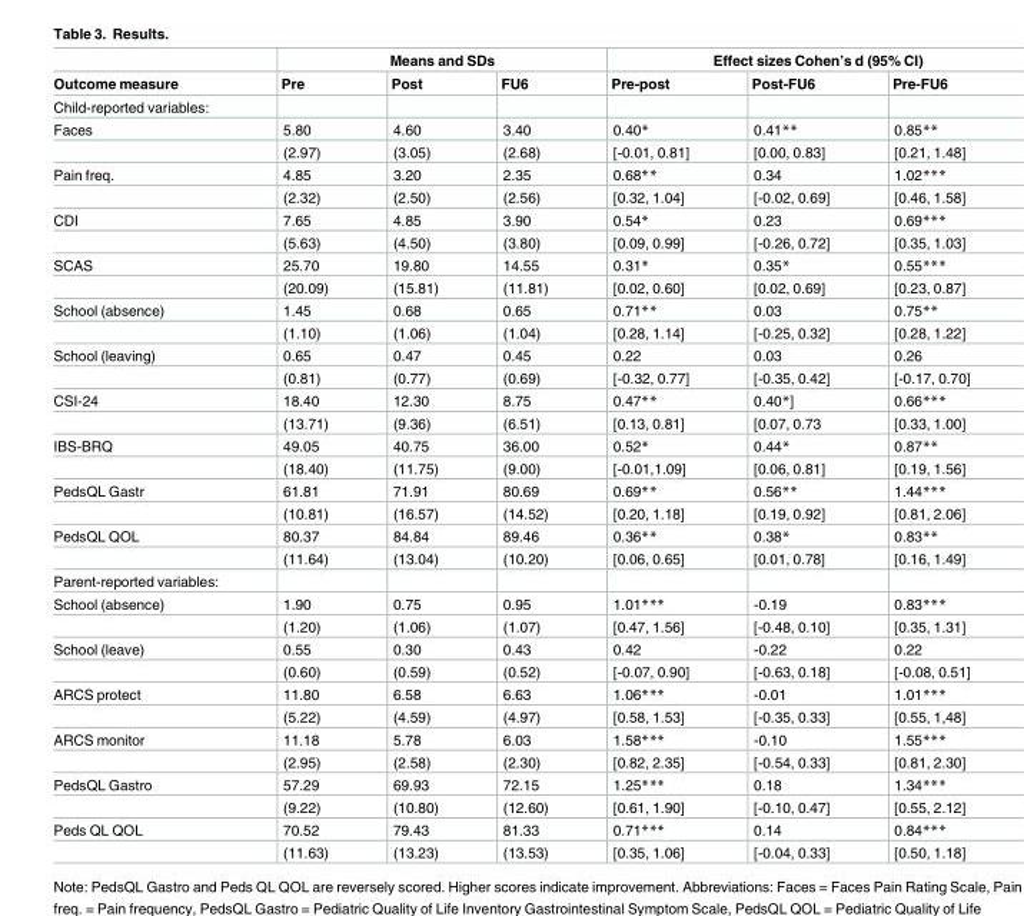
<table><thead><tr><td rowspan="2">Outcome measure</td><td colspan="3">Means and SDs</td><td colspan="3">Effect sizes Cohen’s d (95% CI)</td></tr><tr><td>Pre</td><td>Post</td><td>FU6</td><td>Pre-post</td><td>Post-FU6</td><td>Pre-FU6</td></tr></thead><tbody><tr><td colspan="7">Child-reported variables:</td></tr><tr><td rowspan="2">Faces</td><td>5.80</td><td>4.60</td><td>3.40</td><td>0.40*</td><td>0.41**</td><td>0.85**</td></tr><tr><td>(2.97)</td><td>(3.05)</td><td>(2.68)</td><td>[-0.01, 0.81]</td><td>[0.00, 0.83]</td><td>[0.21, 1.48]</td></tr><tr><td rowspan="2">Pain freq.</td><td>4.85</td><td>3.20</td><td>2.35</td><td>0.68**</td><td>0.34</td><td>1.02***</td></tr><tr><td>(2.32)</td><td>(2.50)</td><td>(2.56)</td><td>[0.32, 1.04]</td><td>[-0.02, 0.69]</td><td>[0.46, 1.58]</td></tr><tr><td rowspan="2">CDI</td><td>7.65</td><td>4.85</td><td>3.90</td><td>0.54*</td><td>0.23</td><td>0.69***</td></tr><tr><td>(5.63)</td><td>(4.50)</td><td>(3.80)</td><td>[0.09, 0.99]</td><td>[-0.26, 0.72]</td><td>[0.35, 1.03]</td></tr><tr><td rowspan="2">SCAS</td><td>25.70</td><td>19.80</td><td>14.55</td><td>0.31*</td><td>0.35*</td><td>0.55***</td></tr><tr><td>(20.09)</td><td>(15.81)</td><td>(11.81)</td><td>[0.02, 0.60]</td><td>[0.02, 0.69]</td><td>[0.23, 0.87]</td></tr><tr><td rowspan="2">School (absence)</td><td>1.45</td><td>0.68</td><td>0.65</td><td>0.71**</td><td>0.03</td><td>0.75**</td></tr><tr><td>(1.10)</td><td>(1.06)</td><td>(1.04)</td><td>[0.28, 1.14]</td><td>[-0.25, 0.32]</td><td>[0.28, 1.22]</td></tr><tr><td rowspan="2">School (leaving)</td><td>0.65</td><td>0.47</td><td>0.45</td><td>0.22</td><td>0.03</td><td>0.26</td></tr><tr><td>(0.81)</td><td>(0.77)</td><td>(0.69)</td><td>[-0.32, 0.77]</td><td>[-0.35, 0.42]</td><td>[-0.17, 0.70]</td></tr><tr><td rowspan="2">CSI-24</td><td>18.40</td><td>12.30</td><td>8.75</td><td>0.47**</td><td>0.40*]</td><td>0.66***</td></tr><tr><td>(13.71)</td><td>(9.36)</td><td>(6.51)</td><td>[0.13, 0.81]</td><td>[0.07, 0.73</td><td>[0.33, 1.00]</td></tr><tr><td rowspan="2">IBS-BRQ</td><td>49.05</td><td>40.75</td><td>36.00</td><td>0.52*</td><td>0.44*</td><td>0.87**</td></tr><tr><td>(18.40)</td><td>(11.75)</td><td>(9.00)</td><td>[-0.01,1.09]</td><td>[0.06, 0.81]</td><td>[0.19, 1.56]</td></tr><tr><td rowspan="2">PedsQL Gastr</td><td>61.81</td><td>71.91</td><td>80.69</td><td>0.69**</td><td>0.56**</td><td>1.44***</td></tr><tr><td>(10.81)</td><td>(16.57)</td><td>(14.52)</td><td>[0.20, 1.18]</td><td>[0.19, 0.92]</td><td>[0.81, 2.06]</td></tr><tr><td rowspan="2">PedsQL QOL</td><td>80.37</td><td>84.84</td><td>89.46</td><td>0.36**</td><td>0.38*</td><td>0.83**</td></tr><tr><td>(11.64)</td><td>(13.04)</td><td>(10.20)</td><td>[0.06, 0.65]</td><td>[0.01, 0.78]</td><td>[0.16, 1.49]</td></tr><tr><td colspan="7">Parent-reported variables:</td></tr><tr><td rowspan="2">School (absence)</td><td>1.90</td><td>0.75</td><td>0.95</td><td>1.01***</td><td>-0.19</td><td>0.83***</td></tr><tr><td>(1.20)</td><td>(1.06)</td><td>(1.07)</td><td>[0.47, 1.56]</td><td>[-0.48, 0.10]</td><td>[0.35, 1.31]</td></tr><tr><td rowspan="2">School (leave)</td><td>0.55</td><td>0.30</td><td>0.43</td><td>0.42</td><td>-0.22</td><td>0.22</td></tr><tr><td>(0.60)</td><td>(0.59)</td><td>(0.52)</td><td>[-0.07, 0.90]</td><td>[-0.63, 0.18]</td><td>[-0.08, 0.51]</td></tr><tr><td rowspan="2">ARCS protect</td><td>11.80</td><td>6.58</td><td>6.63</td><td>1.06***</td><td>-0.01</td><td>1.01***</td></tr><tr><td>(5.22)</td><td>(4.59)</td><td>(4.97)</td><td>[0.58, 1.53]</td><td>[-0.35, 0.33]</td><td>[0.55, 1,48]</td></tr><tr><td rowspan="2">ARCS monitor</td><td>11.18</td><td>5.78</td><td>6.03</td><td>1.58***</td><td>-0.10</td><td>1.55***</td></tr><tr><td>(2.95)</td><td>(2.58)</td><td>(2.30)</td><td>[0.82, 2.35]</td><td>[-0.54, 0.33]</td><td>[0.81, 2.30]</td></tr><tr><td rowspan="2">PedsQL Gastro</td><td>57.29</td><td>69.93</td><td>72.15</td><td>1.25***</td><td>0.18</td><td>1.34***</td></tr><tr><td>(9.22)</td><td>(10.80)</td><td>(12.60)</td><td>[0.61, 1.90]</td><td>[-0.10, 0.47]</td><td>[0.55, 2.12]</td></tr><tr><td rowspan="2">Peds QL QOL</td><td>70.52</td><td>79.43</td><td>81.33</td><td>0.71***</td><td>0.14</td><td>0.84***</td></tr><tr><td>(11.63)</td><td>(13.23)</td><td>(13.53)</td><td>[0.35, 1.06]</td><td>[-0.04, 0.33]</td><td>[0.50, 1.18]</td></tr></tbody></table>